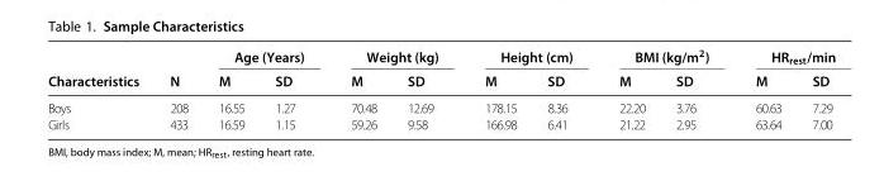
<table><thead><tr><td rowspan="2">Characteristics</td><td rowspan="2">N</td><td colspan="2">Age (Years)</td><td colspan="2">Weight (kg)</td><td colspan="2">Height (cm)</td><td colspan="2">BMI (kg/m<sup>2</sup>)</td><td colspan="2">HR<sub>rest</sub>/min</td></tr><tr><td>M</td><td>SD</td><td>M</td><td>SD</td><td>M</td><td>SD</td><td>M</td><td>SD</td><td>M</td><td>SD</td></tr></thead><tbody><tr><td>Boys</td><td>208</td><td>16.55</td><td>1.27</td><td>70.48</td><td>12.69</td><td>178.15</td><td>8.36</td><td>22.20</td><td>3.76</td><td>60.63</td><td>7.29</td></tr><tr><td>Girls</td><td>433</td><td>16.59</td><td>1.15</td><td>59.26</td><td>9.58</td><td>166.98</td><td>6.41</td><td>21.22</td><td>2.95</td><td>63.64</td><td>7.00</td></tr></tbody></table>